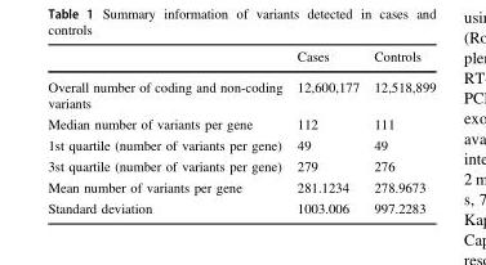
<table><thead><tr><td></td><td>Cases</td><td>Controls</td></tr></thead><tbody><tr><td>Overall number of coding and non-coding variants</td><td>12,600,177</td><td>12,518,899</td></tr><tr><td>Median number of variants per gene</td><td>112</td><td>111</td></tr><tr><td>1st quartile (number of variants per gene)</td><td>49</td><td>49</td></tr><tr><td>3st quartile (number of variants per gene)</td><td>279</td><td>276</td></tr><tr><td>Mean number of variants per gene</td><td>281.1234</td><td>278.9673</td></tr><tr><td>Standard deviation</td><td>1003.006</td><td>997.2283</td></tr></tbody></table>